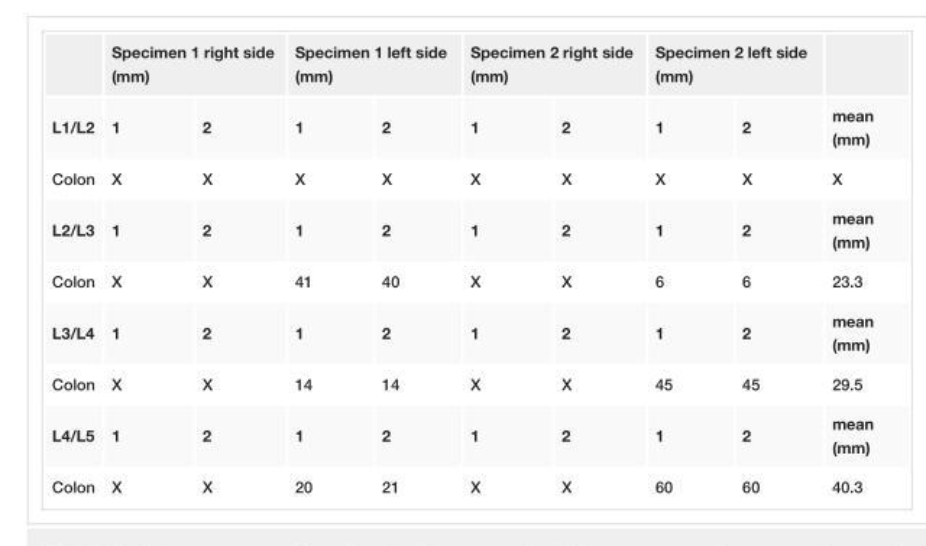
<table><thead><tr><td rowspan="2">L1/L2</td><td colspan="2">Specimen 1 right side (mm)</td><td colspan="2">Specimen 1 left side (mm)</td><td colspan="2">Specimen 2 right side (mm)</td><td colspan="2">Specimen 2 left side (mm)</td><td rowspan="2">mean (mm)</td></tr><tr><td>1</td><td>2</td><td>1</td><td>2</td><td>1</td><td>2</td><td>1</td><td>2</td></tr></thead><tbody><tr><td>Colon</td><td>X</td><td>X</td><td>X</td><td>X</td><td>X</td><td>X</td><td>X</td><td>X</td><td>X</td></tr><tr><td>L2/L3</td><td>1</td><td>2</td><td>1</td><td>2</td><td>1</td><td>2</td><td>1</td><td>2</td><td>mean (mm)</td></tr><tr><td>Colon</td><td>X</td><td>X</td><td>41</td><td>40</td><td>X</td><td>X</td><td>6</td><td>6</td><td>23.3</td></tr><tr><td>L3/L4</td><td>1</td><td>2</td><td>1</td><td>2</td><td>1</td><td>2</td><td>1</td><td>2</td><td>mean (mm)</td></tr><tr><td>Colon</td><td>X</td><td>X</td><td>14</td><td>14</td><td>X</td><td>X</td><td>45</td><td>45</td><td>29.5</td></tr><tr><td>L4/L5</td><td>1</td><td>2</td><td>1</td><td>2</td><td>1</td><td>2</td><td>1</td><td>2</td><td>mean (mm)</td></tr><tr><td>Colon</td><td>X</td><td>X</td><td>20</td><td>21</td><td>X</td><td>X</td><td>60</td><td>60</td><td>40.3</td></tr></tbody></table>